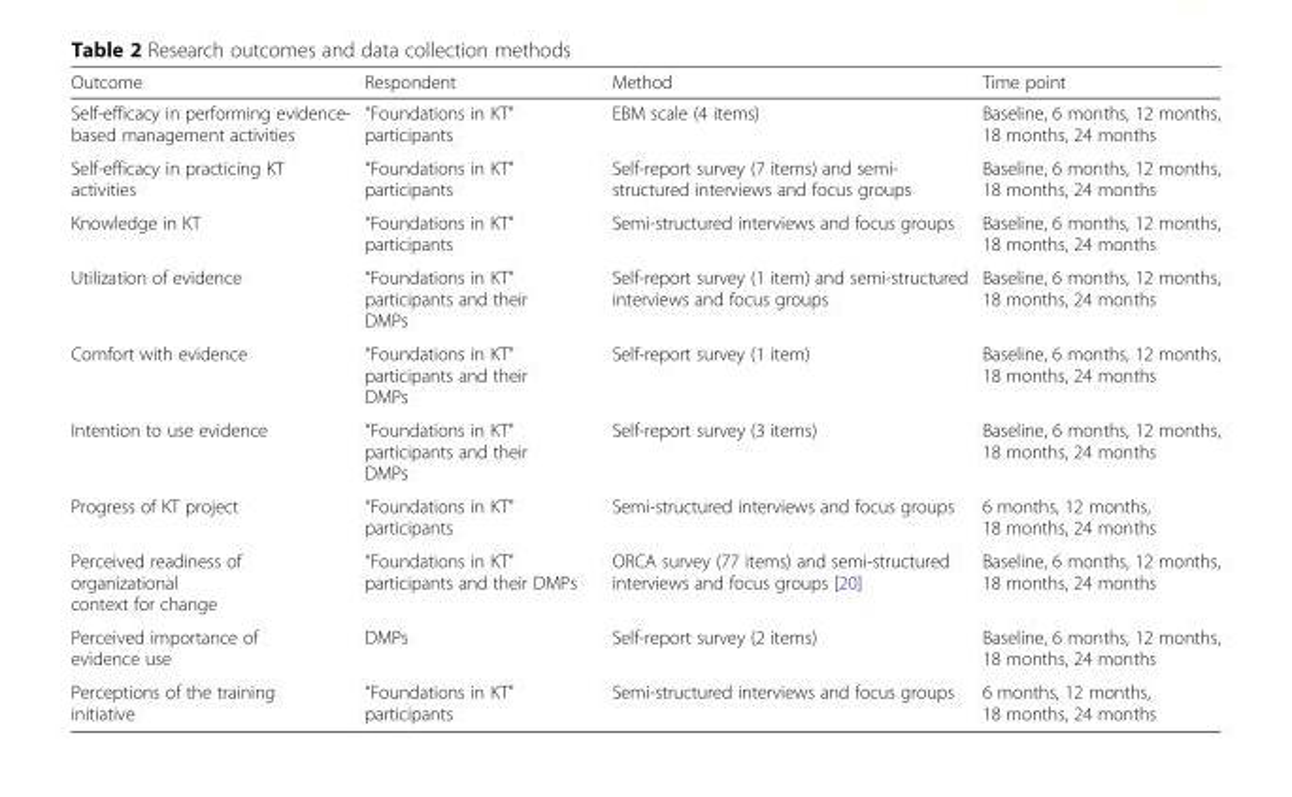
<table><thead><tr><td>Outcome</td><td>Respondent</td><td>Method</td><td>Time point</td></tr></thead><tbody><tr><td>Self-efficacy in performing evidence- based management activities</td><td>“Foundations in KT” participants</td><td>EBM scale (4 items)</td><td>Baseline, 6 months, 12 months, 18 months, 24 months</td></tr><tr><td>Self-efficacy in practicing KT activities</td><td>“Foundations in KT” participants</td><td>Self-report survey (7 items) and semi- structured interviews and focus groups</td><td>Baseline, 6 months, 12 months, 18 months, 24 months</td></tr><tr><td>Knowledge in KT</td><td>“Foundations in KT” participants</td><td>Semi-structured interviews and focus groups</td><td>Baseline, 6 months, 12 months, 18 months, 24 months</td></tr><tr><td>Utilization of evidence</td><td>“Foundations in KT” participants and their DMPs</td><td>Self-report survey (1 item) and semi-structured interviews and focus groups</td><td>Baseline, 6 months, 12 months, 18 months, 24 months</td></tr><tr><td>Comfort with evidence</td><td>“Foundations in KT” participants and their DMPs</td><td>Self-report survey (1 item)</td><td>Baseline, 6 months, 12 months, 18 months, 24 months</td></tr><tr><td>Intention to use evidence</td><td>“Foundations in KT” participants and their DMPs</td><td>Self-report survey (3 items)</td><td>Baseline, 6 months, 12 months, 18 months, 24 months</td></tr><tr><td>Progress of KT project</td><td>“Foundations in KT” participants</td><td>Semi-structured interviews and focus groups</td><td>6 months, 12 months, 18 months, 24 months</td></tr><tr><td>Perceived readiness of organizational context for change</td><td>“Foundations in KT” participants and their DMPs</td><td>ORCA survey (77 items) and semi-structured interviews and focus groups [20]</td><td>Baseline, 6 months, 12 months, 18 months, 24 months</td></tr><tr><td>Perceived importance of evidence use</td><td>DMPs</td><td>Self-report survey (2 items)</td><td>Baseline, 6 months, 12 months, 18 months, 24 months</td></tr><tr><td>Perceptions of the training initiative</td><td>“Foundations in KT” participants</td><td>Semi-structured interviews and focus groups</td><td>6 months, 12 months, 18 months, 24 months</td></tr></tbody></table>